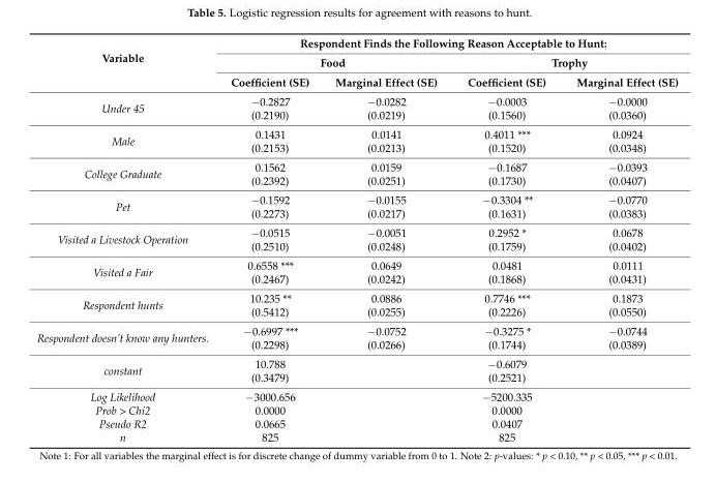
<table><thead><tr><td rowspan="3">Variable</td><td colspan="4">Respondent Finds the Following Reason Acceptable to Hunt:</td></tr><tr><td colspan="2">Food</td><td colspan="2">Trophy</td></tr><tr><td>Coefficient (SE)</td><td>Marginal Effect (SE)</td><td>Coefficient (SE)</td><td>Marginal Effect (SE)</td></tr></thead><tbody><tr><td>Under 45</td><td>−0.2827 (0.2190)</td><td>−0.0282 (0.0219)</td><td>−0.0003 (0.1560)</td><td>−0.0000 (0.0360)</td></tr><tr><td>Male</td><td>0.1431 (0.2153)</td><td>0.0141 (0.0213)</td><td>0.4011 *** (0.1520)</td><td>0.0924 (0.0348)</td></tr><tr><td>College Graduate</td><td>0.1562 (0.2392)</td><td>0.0159 (0.0251)</td><td>−0.1687 (0.1730)</td><td>−0.0393 (0.0407)</td></tr><tr><td>Pet</td><td>−0.1592 (0.2273)</td><td>−0.0155 (0.0217)</td><td>−0.3304 ** (0.1631)</td><td>−0.0770 (0.0383)</td></tr><tr><td>Visited a Livestock Operation</td><td>−0.0515 (0.2510)</td><td>−0.0051 (0.0248)</td><td>0.2952 * (0.1759)</td><td>0.0678 (0.0402)</td></tr><tr><td>Visited a Fair</td><td>0.6558 *** (0.2467)</td><td>0.0649 (0.0242)</td><td>0.0481 (0.1868)</td><td>0.0111 (0.0431)</td></tr><tr><td>Respondent hunts</td><td>10.235 ** (0.5412)</td><td>0.0886 (0.0255)</td><td>0.7746 *** (0.2226)</td><td>0.1873 (0.0550)</td></tr><tr><td>Respondent doesn’t know any hunters.</td><td>−0.6997 *** (0.2298)</td><td>−0.0752 (0.0266)</td><td>−0.3275 * (0.1744)</td><td>−0.0744 (0.0389)</td></tr><tr><td>constant</td><td>10.788 (0.3479)</td><td></td><td>−0.6079 (0.2521)</td><td></td></tr><tr><td>Log Likelihood Prob &gt; Chi2 Pseudo R2 n</td><td>−3000.656 0.0000 0.0665 825</td><td></td><td>−5200.335 0.0000 0.0407 825</td><td></td></tr></tbody></table>